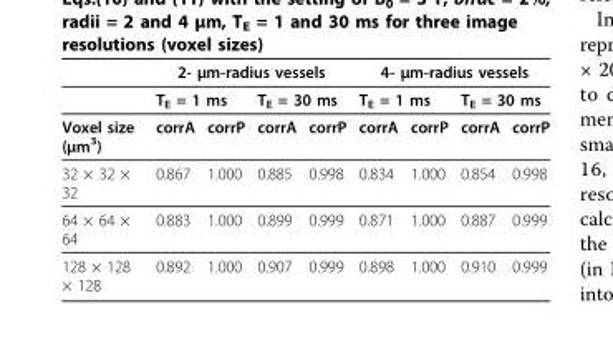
<table><thead><tr><td rowspan="3">Voxel size (μm<sup>3</sup>)</td><td colspan="4">2- μm-radius vessels</td><td colspan="4">4- μm-radius vessels</td></tr><tr><td colspan="2">T<sub>E</sub> = 1 ms</td><td colspan="2">T<sub>E</sub> = 30 ms</td><td colspan="2">T<sub>E</sub> = 1 ms</td><td colspan="2">T<sub>E</sub> = 30 ms</td></tr><tr><td>corrA</td><td>corrP</td><td>corrA</td><td>corrP</td><td>corrA</td><td>corrP</td><td>corrA</td><td>corrP</td></tr></thead><tbody><tr><td>32 × 32 × 32</td><td>0.867</td><td>1.000</td><td>0.885</td><td>0.998</td><td>0.834</td><td>1.000</td><td>0.854</td><td>0.998</td></tr><tr><td>64 × 64 × 64</td><td>0.883</td><td>1.000</td><td>0.899</td><td>0.999</td><td>0.871</td><td>1.000</td><td>0.887</td><td>0.999</td></tr><tr><td>128 × 128 × 128</td><td>0.892</td><td>1.000</td><td>0.907</td><td>0.999</td><td>0.898</td><td>1.000</td><td>0.910</td><td>0.999</td></tr></tbody></table>